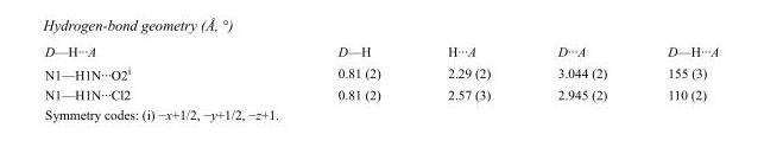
<table><tbody><tr><td>D—H···A</td><td>D—H</td><td>H···A</td><td>D···A</td><td>D—H···A</td></tr><tr><td>N1—H1N···O2<sup>i</sup></td><td>0.81 (2)</td><td>2.29 (2)</td><td>3.044 (2)</td><td>155 (3)</td></tr><tr><td>N1—H1N···Cl2</td><td>0.81 (2)</td><td>2.57 (3)</td><td>2.945 (2)</td><td>110 (2)</td></tr></tbody></table>